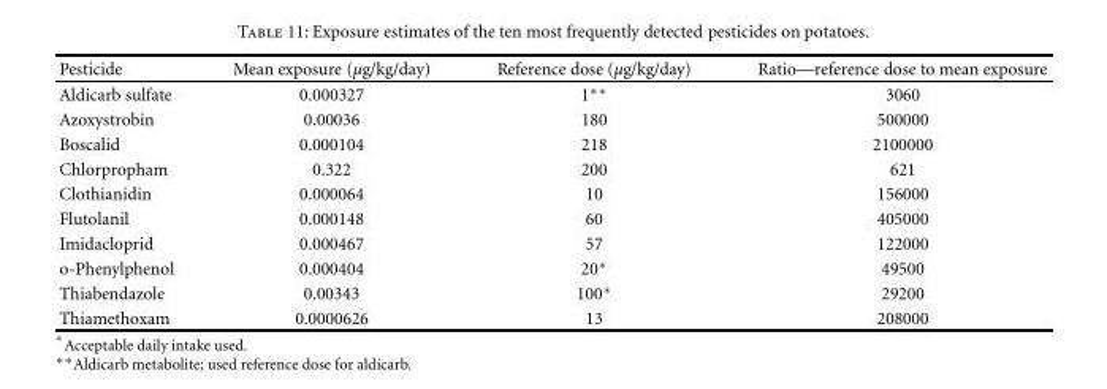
<table><thead><tr><td>Pesticide</td><td>Mean exposure (µg/kg/day)</td><td>Reference dose (µg/kg/day)</td><td>Ratio—reference dose to mean exposure</td></tr></thead><tbody><tr><td>Aldicarb sulfate</td><td>0.000327</td><td>1∗∗</td><td>3060</td></tr><tr><td>Azoxystrobin</td><td>0.00036</td><td>180</td><td>500000</td></tr><tr><td>Boscalid</td><td>0.000104</td><td>218</td><td>2100000</td></tr><tr><td>Chlorpropham</td><td>0.322</td><td>200</td><td>621</td></tr><tr><td>Clothianidin</td><td>0.000064</td><td>10</td><td>156000</td></tr><tr><td>Flutolanil</td><td>0.000148</td><td>60</td><td>405000</td></tr><tr><td>Imidacloprid</td><td>0.000467</td><td>57</td><td>122000</td></tr><tr><td>o-Phenylphenol</td><td>0.000404</td><td>20∗</td><td>49500</td></tr><tr><td>Thiabendazole</td><td>0.00343</td><td>100∗</td><td>29200</td></tr><tr><td>Thiamethoxam</td><td>0.0000626</td><td>13</td><td>208000</td></tr></tbody></table>